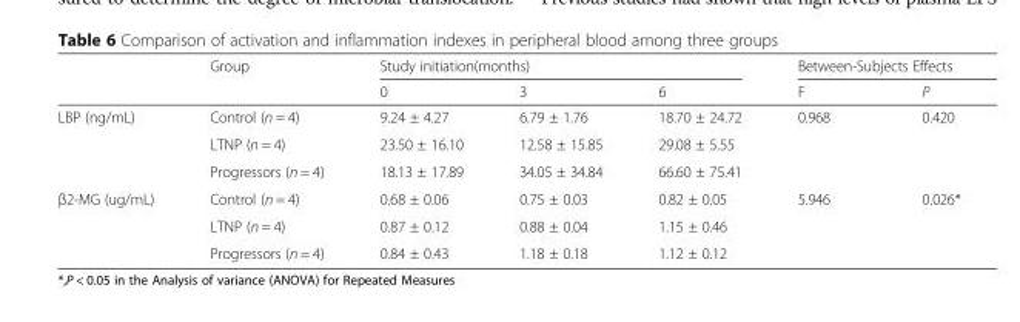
<table><thead><tr><td rowspan="2"></td><td rowspan="2">Group</td><td colspan="3">Study initiation(months)</td><td colspan="2">Between-Subjects Effects</td></tr><tr><td>0</td><td>3</td><td>6</td><td>F</td><td>P</td></tr></thead><tbody><tr><td rowspan="3">LBP (ng/mL)</td><td>Control (n = 4)</td><td>9.24 ± 4.27</td><td>6.79 ± 1.76</td><td>18.70 ± 24.72</td><td rowspan="3">0.968</td><td rowspan="3">0.420</td></tr><tr><td>LTNP (n = 4)</td><td>23.50 ± 16.10</td><td>12.58 ± 15.85</td><td>29.08 ± 5.55</td></tr><tr><td>Progressors (n = 4)</td><td>18.13 ± 17.89</td><td>34.05 ± 34.84</td><td>66.60 ± 75.41</td></tr><tr><td rowspan="3">β2-MG (ug/mL)</td><td>Control (n = 4)</td><td>0.68 ± 0.06</td><td>0.75 ± 0.03</td><td>0.82 ± 0.05</td><td rowspan="3">5.946</td><td rowspan="3">0.026*</td></tr><tr><td>LTNP (n = 4)</td><td>0.87 ± 0.12</td><td>0.88 ± 0.04</td><td>1.15 ± 0.46</td></tr><tr><td>Progressors (n = 4)</td><td>0.84 ± 0.43</td><td>1.18 ± 0.18</td><td>1.12 ± 0.12</td></tr></tbody></table>